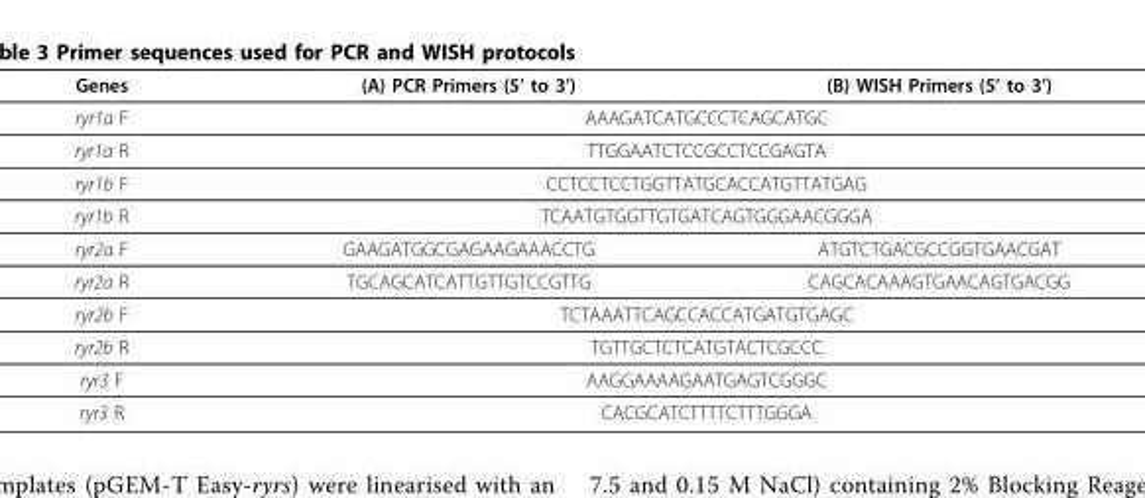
<table><thead><tr><td>Genes</td><td>(A) PCR Primers (5’ to 3’)</td><td>(B) WISH Primers (5’ to 3’)</td></tr></thead><tbody><tr><td>ryr1a F</td><td colspan="2">AAAGATCATGCCCTCAGCATGC</td></tr><tr><td>ryr1a R</td><td colspan="2">TTGGAATCTCCGCCTCCGAGTA</td></tr><tr><td>ryr1b F</td><td colspan="2">CCTCCTCCTGGTTATGCACCATGTTATGAG</td></tr><tr><td>ryr1b R</td><td colspan="2">TCAATGTGGTTGTGATCAGTGGGAACGGGA</td></tr><tr><td>ryr2a F</td><td>GAAGATGGCGAGAAGAAACCTG</td><td>ATGTCTGACGCCGGTGAACGAT</td></tr><tr><td>ryr2a R</td><td>TGCAGCATCATTGTTGTCCGTTG</td><td>CAGCACAAAGTGAACAGTGACGG</td></tr><tr><td>ryr2b F</td><td colspan="2">TCTAAATTCAGCCACCATGATGTGAGC</td></tr><tr><td>ryr2b R</td><td colspan="2">TGTTGCTCTCATGTACTCGCCC</td></tr><tr><td>ryr3 F</td><td colspan="2">AAGGAAAAGAATGAGTCGGGC</td></tr><tr><td>ryr3 R</td><td colspan="2">CACGCATCTTTTCTTTGGGA</td></tr></tbody></table>